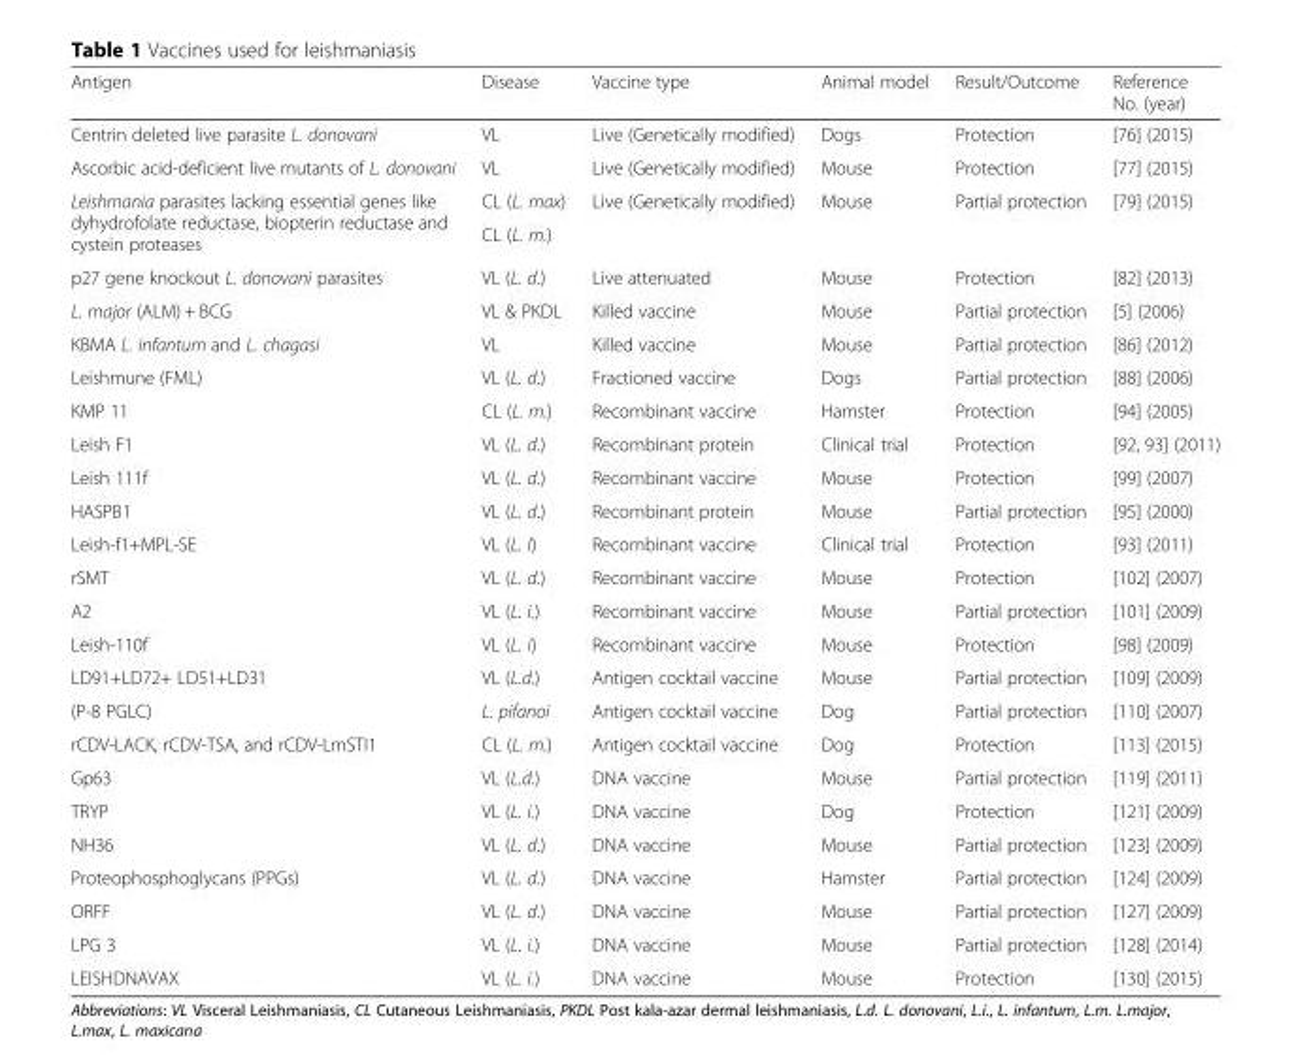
<table><thead><tr><td>Antigen</td><td>Disease</td><td>Vaccine type</td><td>Animal model</td><td>Result/Outcome</td><td>Reference No. (year)</td></tr></thead><tbody><tr><td>Centrin deleted live parasite L. donovani</td><td>VL</td><td>Live (Genetically modified)</td><td>Dogs</td><td>Protection</td><td>[76] (2015)</td></tr><tr><td>Ascorbic acid-deficient live mutants of L. donovani</td><td>VL</td><td>Live (Genetically modified)</td><td>Mouse</td><td>Protection</td><td>[77] (2015)</td></tr><tr><td rowspan="2">Leishmania parasites lacking essential genes like dyhydrofolate reductase, biopterin reductase and cystein proteases</td><td>CL (L. max)</td><td rowspan="2">Live (Genetically modified)</td><td rowspan="2">Mouse</td><td rowspan="2">Partial protection</td><td rowspan="2">[79] (2015)</td></tr><tr><td>CL (L. m.)</td></tr><tr><td>p27 gene knockout L. donovani parasites</td><td>VL (L. d.)</td><td>Live attenuated</td><td>Mouse</td><td>Protection</td><td>[82] (2013)</td></tr><tr><td>L. major (ALM) + BCG</td><td>VL &amp; PKDL</td><td>Killed vaccine</td><td>Mouse</td><td>Partial protection</td><td>[5] (2006)</td></tr><tr><td>KBMA L. infantum and L. chagasi</td><td>VL</td><td>Killed vaccine</td><td>Mouse</td><td>Partial protection</td><td>[86] (2012)</td></tr><tr><td>Leishmune (FML)</td><td>VL (L. d.)</td><td>Fractioned vaccine</td><td>Dogs</td><td>Partial protection</td><td>[88] (2006)</td></tr><tr><td>KMP 11</td><td>CL (L. m.)</td><td>Recombinant vaccine</td><td>Hamster</td><td>Protection</td><td>[94] (2005)</td></tr><tr><td>Leish F1</td><td>VL (L. d.)</td><td>Recombinant protein</td><td>Clinical trial</td><td>Protection</td><td>[92, 93] (2011)</td></tr><tr><td>Leish 111f</td><td>VL (L. d.)</td><td>Recombinant vaccine</td><td>Mouse</td><td>Protection</td><td>[99] (2007)</td></tr><tr><td>HASPB1</td><td>VL (L. d.)</td><td>Recombinant protein</td><td>Mouse</td><td>Partial protection</td><td>[95] (2000)</td></tr><tr><td>Leish-f1+MPL-SE</td><td>VL (L. I)</td><td>Recombinant vaccine</td><td>Clinical trial</td><td>Protection</td><td>[93] (2011)</td></tr><tr><td>rSMT</td><td>VL (L. d.)</td><td>Recombinant vaccine</td><td>Mouse</td><td>Protection</td><td>[102] (2007)</td></tr><tr><td>A2</td><td>VL (L. i.)</td><td>Recombinant vaccine</td><td>Mouse</td><td>Partial protection</td><td>[101] (2009)</td></tr><tr><td>Leish-110f</td><td>VL (L. i)</td><td>Recombinant vaccine</td><td>Mouse</td><td>Protection</td><td>[98] (2009)</td></tr><tr><td>LD91+LD72+ LD51+LD31</td><td>VL (L.d.)</td><td>Antigen cocktail vaccine</td><td>Mouse</td><td>Partial protection</td><td>[109] (2009)</td></tr><tr><td>(P-8 PGLC)</td><td>L. pifanoi</td><td>Antigen cocktail vaccine</td><td>Dog</td><td>Partial protection</td><td>[110] (2007)</td></tr><tr><td>rCDV-LACK, rCDV-TSA, and rCDV-LmSTI1</td><td>CL (L. m.)</td><td>Antigen cocktail vaccine</td><td>Dog</td><td>Protection</td><td>[113] (2015)</td></tr><tr><td>Gp63</td><td>VL (L.d.)</td><td>DNA vaccine</td><td>Mouse</td><td>Partial protection</td><td>[119] (2011)</td></tr><tr><td>TRYP</td><td>VL (L. i.)</td><td>DNA vaccine</td><td>Dog</td><td>Protection</td><td>[121] (2009)</td></tr><tr><td>NH36</td><td>VL (L. d.)</td><td>DNA vaccine</td><td>Mouse</td><td>Partial protection</td><td>[123] (2009)</td></tr><tr><td>Proteophosphoglycans (PPGs)</td><td>VL (L. d.)</td><td>DNA vaccine</td><td>Hamster</td><td>Partial protection</td><td>[124] (2009)</td></tr><tr><td>ORFF</td><td>VL (L. d.)</td><td>DNA vaccine</td><td>Mouse</td><td>Partial protection</td><td>[127] (2009)</td></tr><tr><td>LPG 3</td><td>VL (L. i.)</td><td>DNA vaccine</td><td>Mouse</td><td>Partial protection</td><td>[128] (2014)</td></tr><tr><td>LEISHDNAVAX</td><td>VL (L. i.)</td><td>DNA vaccine</td><td>Mouse</td><td>Protection</td><td>[130] (2015)</td></tr></tbody></table>